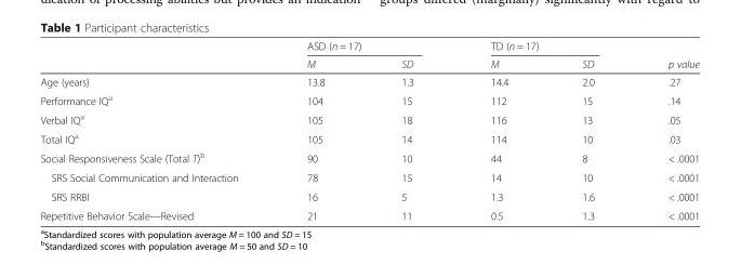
<table><thead><tr><td rowspan="2"></td><td colspan="2">ASD (n = 17)</td><td colspan="2">TD (n = 17)</td><td rowspan="2">p value</td></tr><tr><td>M</td><td>SD</td><td>M</td><td>SD</td></tr></thead><tbody><tr><td>Age (years)</td><td>13.8</td><td>1.3</td><td>14.4</td><td>2.0</td><td>.27</td></tr><tr><td>Performance IQ<sup>a</sup></td><td>104</td><td>15</td><td>112</td><td>15</td><td>.14</td></tr><tr><td>Verbal IQ<sup>a</sup></td><td>105</td><td>18</td><td>116</td><td>13</td><td>.05</td></tr><tr><td>Total IQ<sup>a</sup></td><td>105</td><td>14</td><td>114</td><td>10</td><td>.03</td></tr><tr><td>Social Responsiveness Scale (Total T)<sup>b</sup></td><td>90</td><td>10</td><td>44</td><td>8</td><td>&lt; .0001</td></tr><tr><td>SRS Social Communication and Interaction</td><td>78</td><td>15</td><td>14</td><td>10</td><td>&lt; .0001</td></tr><tr><td>SRS RRBI</td><td>16</td><td>5</td><td>1.3</td><td>1.6</td><td>&lt; .0001</td></tr><tr><td>Repetitive Behavior Scale—Revised</td><td>21</td><td>11</td><td>0.5</td><td>1.3</td><td>&lt; .0001</td></tr></tbody></table>